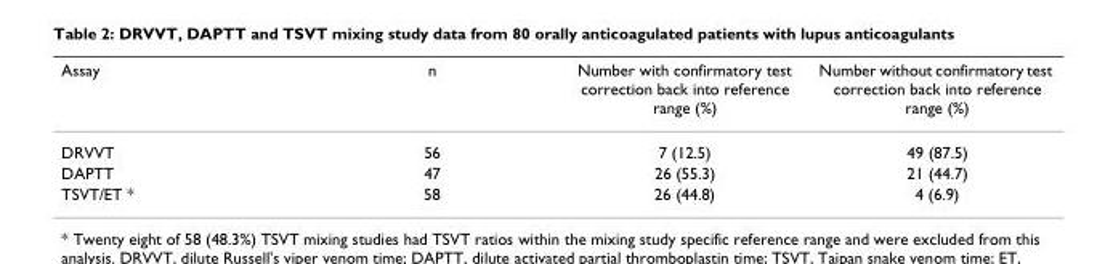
<table><thead><tr><td>Assay</td><td>n</td><td>Number with confirmatory test correction back into reference range (%)</td><td>Number without confirmatory test correction back into reference range (%)</td></tr></thead><tbody><tr><td>DRVVT</td><td>56</td><td>7 (12.5)</td><td>49 (87.5)</td></tr><tr><td>DAPTT</td><td>47</td><td>26 (55.3)</td><td>21 (44.7)</td></tr><tr><td>TSVT/ET *</td><td>58</td><td>26 (44.8)</td><td>4 (6.9)</td></tr></tbody></table>